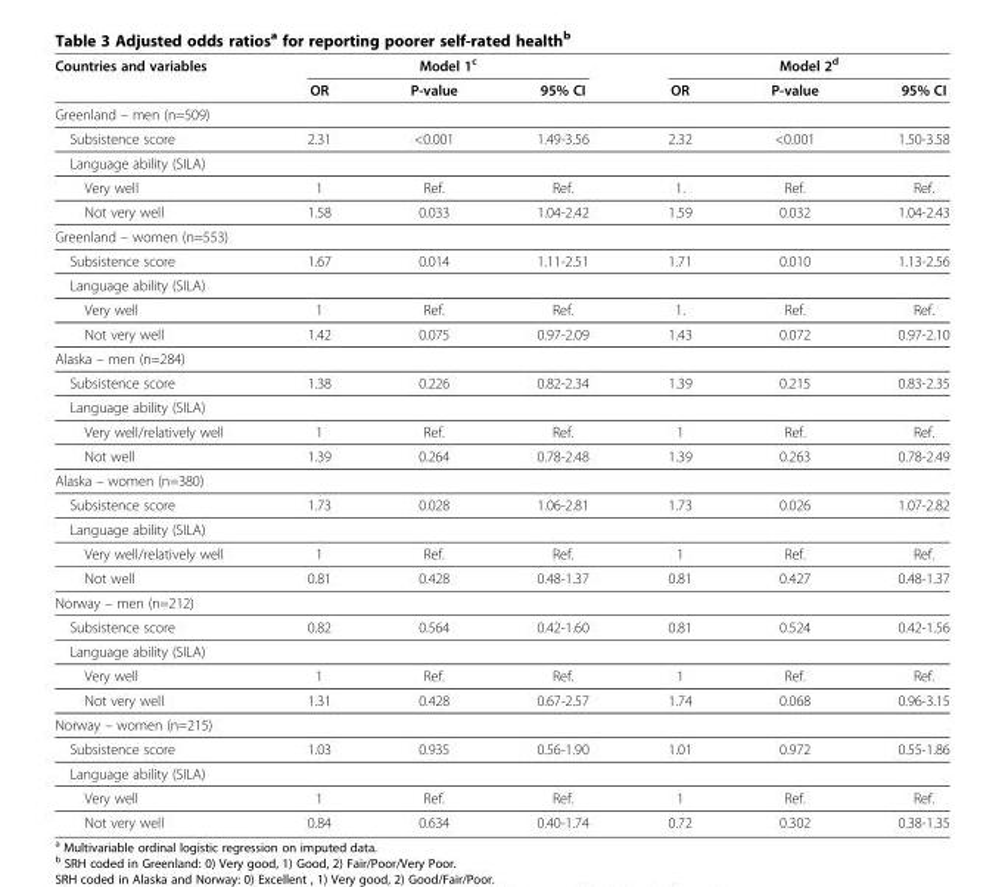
<table><thead><tr><td rowspan="2">Countries and variables</td><td colspan="3">Model 1<sup>c</sup></td><td colspan="3">Model 2<sup>d</sup></td></tr><tr><td>OR</td><td>P-value</td><td>95% CI</td><td>OR</td><td>P-value</td><td>95% CI</td></tr></thead><tbody><tr><td colspan="7">Greenland – men (n=509)</td></tr><tr><td>Subsistence score</td><td>2.31</td><td>&lt;0.001</td><td>1.49-3.56</td><td>2.32</td><td>&lt;0.001</td><td>1.50-3.58</td></tr><tr><td colspan="7">Language ability (SILA)</td></tr><tr><td>Very well</td><td>1</td><td>Ref.</td><td>Ref.</td><td>1.</td><td>Ref.</td><td>Ref.</td></tr><tr><td>Not very well</td><td>1.58</td><td>0.033</td><td>1.04-2.42</td><td>1.59</td><td>0.032</td><td>1.04-2.43</td></tr><tr><td colspan="7">Greenland – women (n=553)</td></tr><tr><td>Subsistence score</td><td>1.67</td><td>0.014</td><td>1.11-2.51</td><td>1.71</td><td>0.010</td><td>1.13-2.56</td></tr><tr><td colspan="7">Language ability (SILA)</td></tr><tr><td>Very well</td><td>1</td><td>Ref.</td><td>Ref.</td><td>1.</td><td>Ref.</td><td>Ref.</td></tr><tr><td>Not very well</td><td>1.42</td><td>0.075</td><td>0.97-2.09</td><td>1.43</td><td>0.072</td><td>0.97-2.10</td></tr><tr><td colspan="7">Alaska – men (n=284)</td></tr><tr><td>Subsistence score</td><td>1.38</td><td>0.226</td><td>0.82-2.34</td><td>1.39</td><td>0.215</td><td>0.83-2.35</td></tr><tr><td colspan="7">Language ability (SILA)</td></tr><tr><td>Very well/relatively well</td><td>1</td><td>Ref.</td><td>Ref.</td><td>1</td><td>Ref.</td><td>Ref.</td></tr><tr><td>Not well</td><td>1.39</td><td>0.264</td><td>0.78-2.48</td><td>1.39</td><td>0.263</td><td>0.78-2.49</td></tr><tr><td colspan="7">Alaska – women (n=380)</td></tr><tr><td>Subsistence score</td><td>1.73</td><td>0.028</td><td>1.06-2.81</td><td>1.73</td><td>0.026</td><td>1.07-2.82</td></tr><tr><td colspan="7">Language ability (SILA)</td></tr><tr><td>Very well/relatively well</td><td>1</td><td>Ref.</td><td>Ref.</td><td>1</td><td>Ref.</td><td>Ref.</td></tr><tr><td>Not well</td><td>0.81</td><td>0.428</td><td>0.48-1.37</td><td>0.81</td><td>0.427</td><td>0.48-1.37</td></tr><tr><td colspan="7">Norway – men (n=212)</td></tr><tr><td>Subsistence score</td><td>0.82</td><td>0.564</td><td>0.42-1.60</td><td>0.81</td><td>0.524</td><td>0.42-1.56</td></tr><tr><td colspan="7">Language ability (SILA)</td></tr><tr><td>Very well</td><td>1</td><td>Ref.</td><td>Ref.</td><td>1</td><td>Ref.</td><td>Ref.</td></tr><tr><td>Not very well</td><td>1.31</td><td>0.428</td><td>0.67-2.57</td><td>1.74</td><td>0.068</td><td>0.96-3.15</td></tr><tr><td colspan="7">Norway – women (n=215)</td></tr><tr><td>Subsistence score</td><td>1.03</td><td>0.935</td><td>0.56-1.90</td><td>1.01</td><td>0.972</td><td>0.55-1.86</td></tr><tr><td colspan="7">Language ability (SILA)</td></tr><tr><td>Very well</td><td>1</td><td>Ref.</td><td>Ref.</td><td>1</td><td>Ref.</td><td>Ref.</td></tr><tr><td>Not very well</td><td>0.84</td><td>0.634</td><td>0.40-1.74</td><td>0.72</td><td>0.302</td><td>0.38-1.35</td></tr></tbody></table>